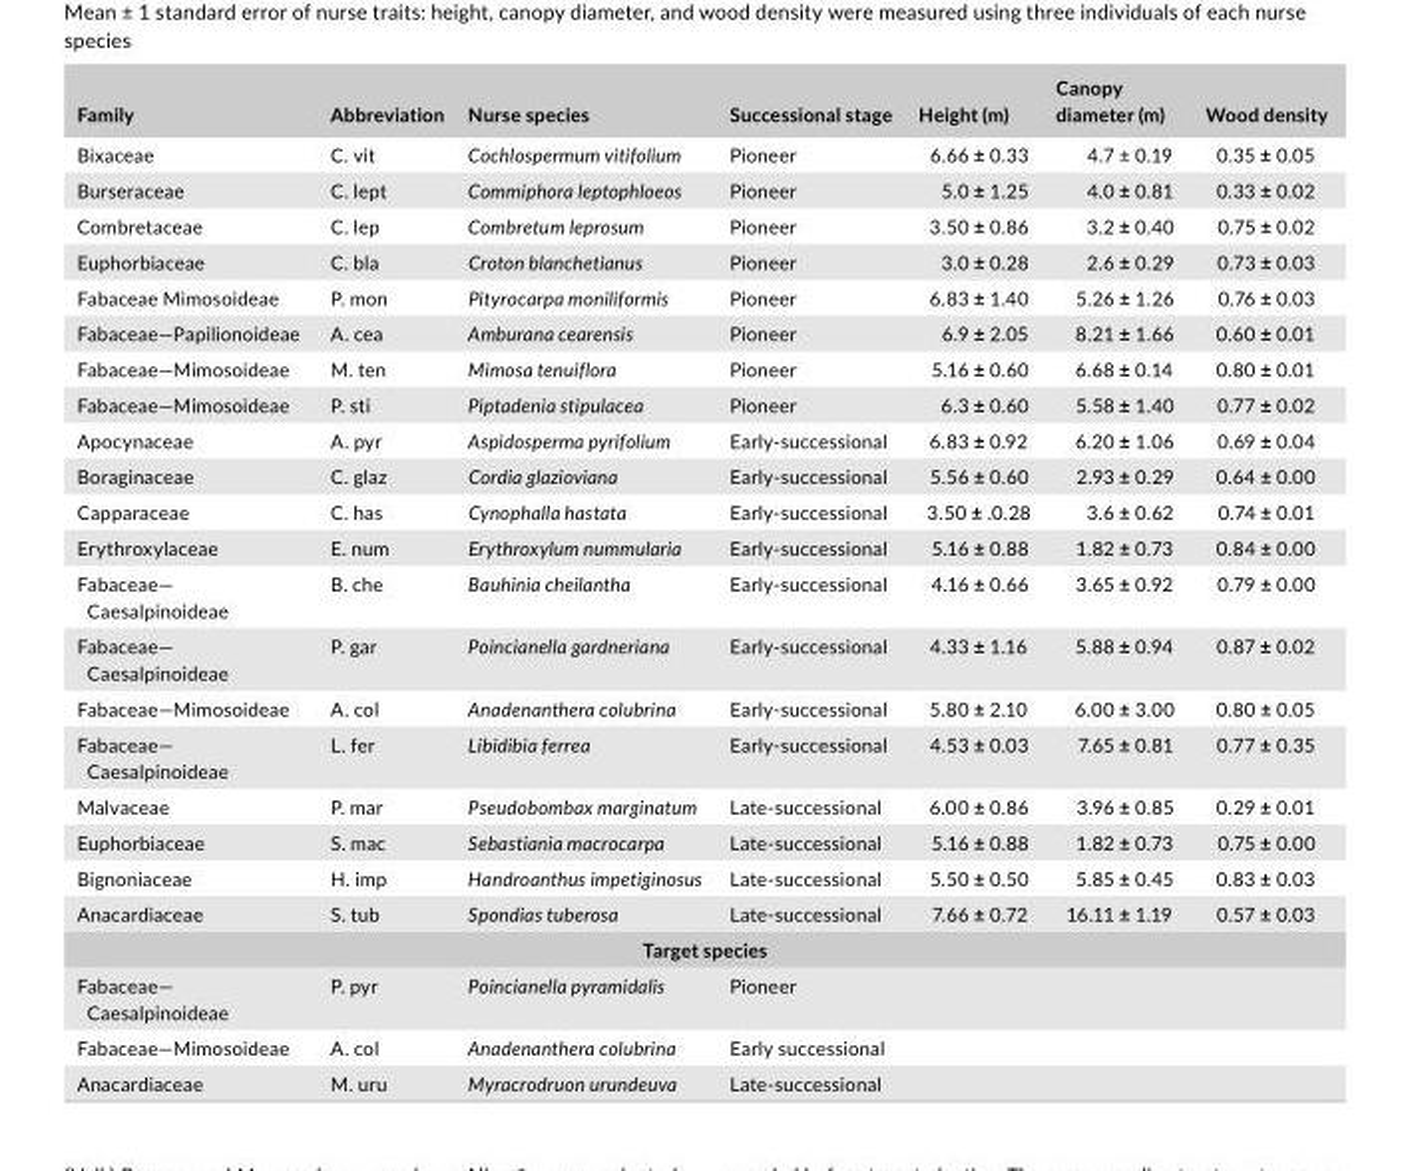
<table><thead><tr><td>Family</td><td>Abbreviation</td><td>Nurse species</td><td>Successional stage</td><td>Height (m)</td><td>Canopy diameter (m)</td><td>Wood density</td></tr></thead><tbody><tr><td>Bixaceae</td><td>C. vit</td><td>Cochlospermum vitifolium</td><td>Pioneer</td><td>6.66 ± 0.33</td><td>4.7 ± 0.19</td><td>0.35 ± 0.05</td></tr><tr><td>Burseraceae</td><td>C. lept</td><td>Commiphora leptophloeos</td><td>Pioneer</td><td>5.0 ± 1.25</td><td>4.0 ± 0.81</td><td>0.33 ± 0.02</td></tr><tr><td>Combretaceae</td><td>C. lep</td><td>Combretum leprosum</td><td>Pioneer</td><td>3.50 ± 0.86</td><td>3.2 ± 0.40</td><td>0.75 ± 0.02</td></tr><tr><td>Euphorbiaceae</td><td>C. bla</td><td>Croton blanchetianus</td><td>Pioneer</td><td>3.0 ± 0.28</td><td>2.6 ± 0.29</td><td>0.73 ± 0.03</td></tr><tr><td>Fabaceae Mimosoideae</td><td>P. mon</td><td>Pityrocarpa moniliformis</td><td>Pioneer</td><td>6.83 ± 1.40</td><td>5.26 ± 1.26</td><td>0.76 ± 0.03</td></tr><tr><td>Fabaceae—Papilionoideae</td><td>A. cea</td><td>Amburana cearensis</td><td>Pioneer</td><td>6.9 ± 2.05</td><td>8.21 ± 1.66</td><td>0.60 ± 0.01</td></tr><tr><td>Fabaceae—Mimosoideae</td><td>M. ten</td><td>Mimosa tenuiflora</td><td>Pioneer</td><td>5.16 ± 0.60</td><td>6.68 ± 0.14</td><td>0.80 ± 0.01</td></tr><tr><td>Fabaceae—Mimosoideae</td><td>P. sti</td><td>Piptadenia stipulacea</td><td>Pioneer</td><td>6.3 ± 0.60</td><td>5.58 ± 1.40</td><td>0.77 ± 0.02</td></tr><tr><td>Apocynaceae</td><td>A. pyr</td><td>Aspidosperma pyrifolium</td><td>Early- successional</td><td>6.83 ± 0.92</td><td>6.20 ± 1.06</td><td>0.69 ± 0.04</td></tr><tr><td>Boraginaceae</td><td>C. glaz</td><td>Cordia glazioviana</td><td>Early- successional</td><td>5.56 ± 0.60</td><td>2.93 ± 0.29</td><td>0.64 ± 0.00</td></tr><tr><td>Capparaceae</td><td>C. has</td><td>Cynophalla hastata</td><td>Early- successional</td><td>3.50 ± .0.28</td><td>3.6 ± 0.62</td><td>0.74 ± 0.01</td></tr><tr><td>Erythroxylaceae</td><td>E. num</td><td>Erythroxylum nummularia</td><td>Early- successional</td><td>5.16 ± 0.88</td><td>1.82 ± 0.73</td><td>0.84 ± 0.00</td></tr><tr><td>Fabaceae— Caesalpinoideae</td><td>B. che</td><td>Bauhinia cheilantha</td><td>Early- successional</td><td>4.16 ± 0.66</td><td>3.65 ± 0.92</td><td>0.79 ± 0.00</td></tr><tr><td>Fabaceae— Caesalpinoideae</td><td>P. gar</td><td>Poincianella gardneriana</td><td>Early- successional</td><td>4.33 ± 1.16</td><td>5.88 ± 0.94</td><td>0.87 ± 0.02</td></tr><tr><td>Fabaceae—Mimosoideae</td><td>A. col</td><td>Anadenanthera colubrina</td><td>Early- successional</td><td>5.80 ± 2.10</td><td>6.00 ± 3.00</td><td>0.80 ± 0.05</td></tr><tr><td>Fabaceae— Caesalpinoideae</td><td>L. fer</td><td>Libidibia ferrea</td><td>Early- successional</td><td>4.53 ± 0.03</td><td>7.65 ± 0.81</td><td>0.77 ± 0.35</td></tr><tr><td>Malvaceae</td><td>P. mar</td><td>Pseudobombax marginatum</td><td>Late- successional</td><td>6.00 ± 0.86</td><td>3.96 ± 0.85</td><td>0.29 ± 0.01</td></tr><tr><td>Euphorbiaceae</td><td>S. mac</td><td>Sebastiania macrocarpa</td><td>Late- successional</td><td>5.16 ± 0.88</td><td>1.82 ± 0.73</td><td>0.75 ± 0.00</td></tr><tr><td>Bignoniaceae</td><td>H. imp</td><td>Handroanthus impetiginosus</td><td>Late- successional</td><td>5.50 ± 0.50</td><td>5.85 ± 0.45</td><td>0.83 ± 0.03</td></tr><tr><td>Anacardiaceae</td><td>S. tub</td><td>Spondias tuberosa</td><td>Late- successional</td><td>7.66 ± 0.72</td><td>16.11 ± 1.19</td><td>0.57 ± 0.03</td></tr><tr><td colspan="7">Target species</td></tr><tr><td>Fabaceae— Caesalpinoideae</td><td>P. pyr</td><td>Poincianella pyramidalis</td><td>Pioneer</td><td></td><td></td><td></td></tr><tr><td>Fabaceae—Mimosoideae</td><td>A. col</td><td>Anadenanthera colubrina</td><td>Early successional</td><td></td><td></td><td></td></tr><tr><td>Anacardiaceae</td><td>M. uru</td><td>Myracrodruon urundeuva</td><td>Late- successional</td><td></td><td></td><td></td></tr></tbody></table>